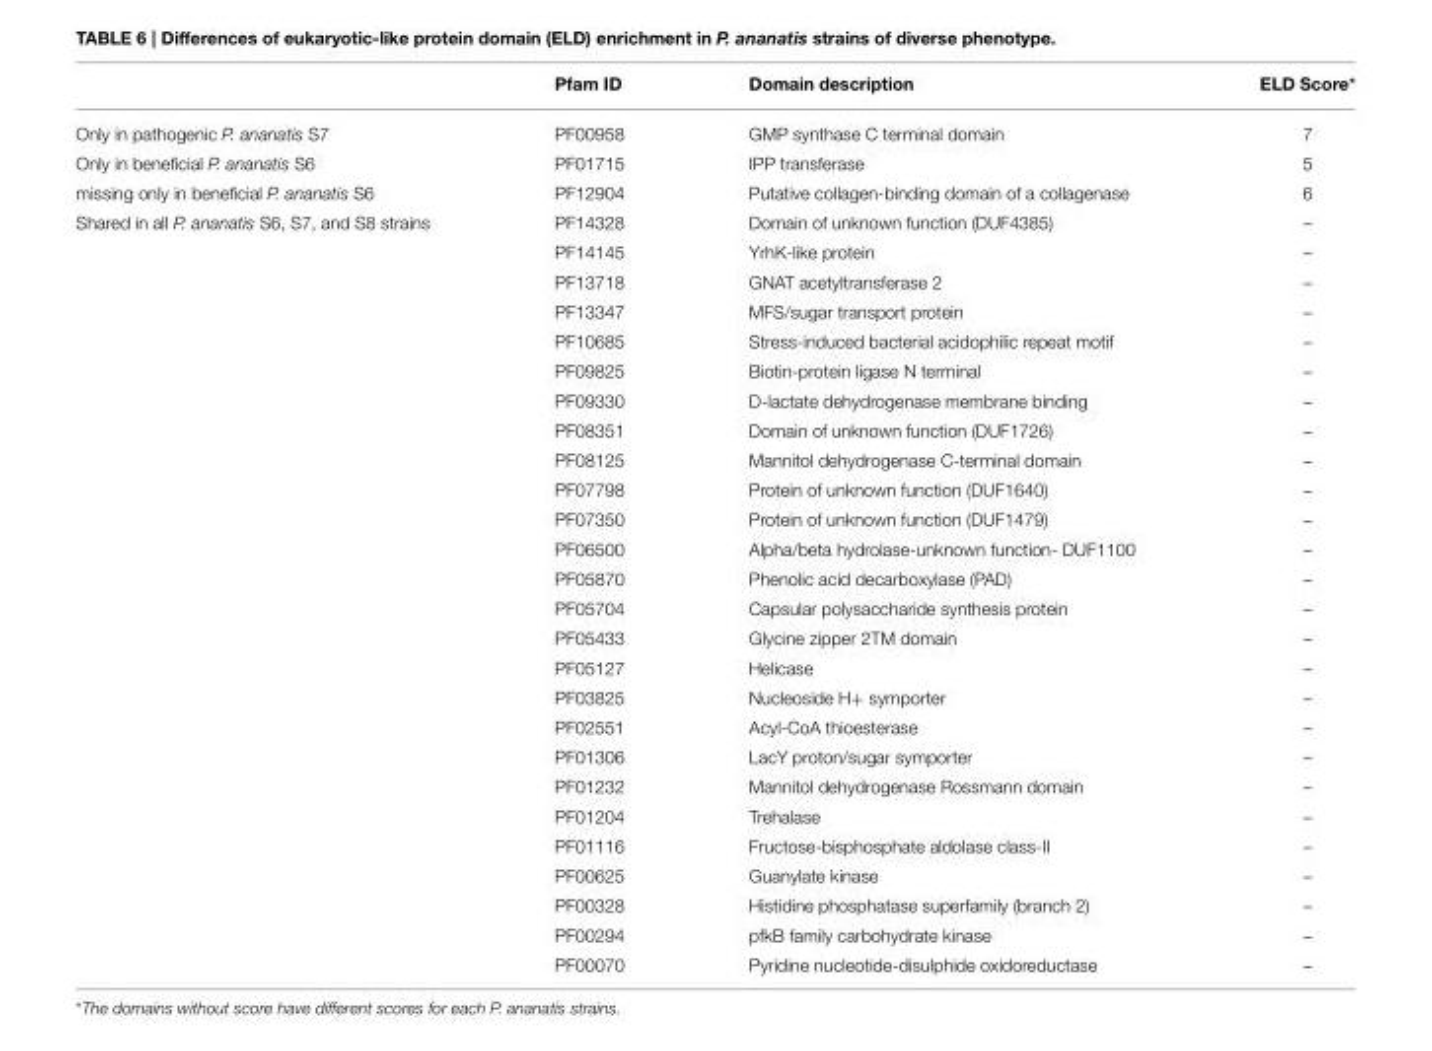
<table><thead><tr><td></td><td>Pfam ID</td><td>Domain description</td><td>ELD Score*</td></tr></thead><tbody><tr><td>Only in pathogenic P. ananatis S7</td><td>PF00958</td><td>GMP synthase C terminal domain</td><td>7</td></tr><tr><td>Only in beneficial P. ananatis S6</td><td>PF01715</td><td>IPP transferase</td><td>5</td></tr><tr><td>missing only in beneficial P. ananatis S6</td><td>PF12904</td><td>Putative collagen-binding domain of a collagenase</td><td>6</td></tr><tr><td rowspan="26">Shared in all P. ananatis S6, S7, and S8 strains</td><td>PF14328</td><td>Domain of unknown function (DUF4385)</td><td>–</td></tr><tr><td>PF14145</td><td>YrhK-like protein</td><td>–</td></tr><tr><td>PF13718</td><td>GNAT acetyltransferase 2</td><td>–</td></tr><tr><td>PF13347</td><td>MFS/sugar transport protein</td><td>–</td></tr><tr><td>PF10685</td><td>Stress-induced bacterial acidophilic repeat motif</td><td>–</td></tr><tr><td>PF09825</td><td>Biotin-protein ligase N terminal</td><td>–</td></tr><tr><td>PF09330</td><td>D-lactate dehydrogenase membrane binding</td><td>–</td></tr><tr><td>PF08351</td><td>Domain of unknown function (DUF1726)</td><td>–</td></tr><tr><td>PF08125</td><td>Mannitol dehydrogenase C-terminal domain</td><td>–</td></tr><tr><td>PF07798</td><td>Protein of unknown function (DUF1640)</td><td>–</td></tr><tr><td>PF07350</td><td>Protein of unknown function (DUF1479)</td><td>–</td></tr><tr><td>PF06500</td><td>Alpha/beta hydrolase-unknown function- DUF1100</td><td>–</td></tr><tr><td>PF05870</td><td>Phenolic acid decarboxylase (PAD)</td><td>–</td></tr><tr><td>PF05704</td><td>Capsular polysaccharide synthesis protein</td><td>–</td></tr><tr><td>PF05433</td><td>Glycine zipper 2TM domain</td><td>–</td></tr><tr><td>PF05127</td><td>Helicase</td><td>–</td></tr><tr><td>PF03825</td><td>Nucleoside H+ symporter</td><td>–</td></tr><tr><td>PF02551</td><td>Acyl-CoA thioesterase</td><td>–</td></tr><tr><td>PF01306</td><td>LacY proton/sugar symporter</td><td>–</td></tr><tr><td>PF01232</td><td>Mannitol dehydrogenase Rossmann domain</td><td>–</td></tr><tr><td>PF01204</td><td>Trehalase</td><td>–</td></tr><tr><td>PF01116</td><td>Fructose-bisphosphate aldolase class-II</td><td>–</td></tr><tr><td>PF00625</td><td>Guanylate kinase</td><td>–</td></tr><tr><td>PF00328</td><td>Histidine phosphatase superfamily (branch 2)</td><td>–</td></tr><tr><td>PF00294</td><td>pfkB family carbohydrate kinase</td><td>–</td></tr><tr><td>PF00070</td><td>Pyridine nucleotide-disulphide oxidoreductase</td><td>–</td></tr></tbody></table>